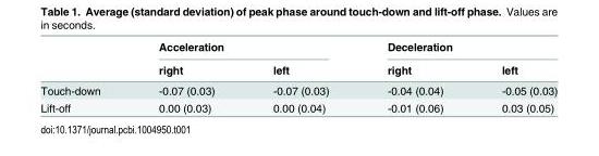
<table><thead><tr><td rowspan="2"></td><td colspan="2">Acceleration</td><td colspan="2">Deceleration</td></tr><tr><td>right</td><td>left</td><td>right</td><td>left</td></tr></thead><tbody><tr><td>Touch-down</td><td>-0.07 (0.03)</td><td>-0.07 (0.03)</td><td>-0.04 (0.04)</td><td>-0.05 (0.03)</td></tr><tr><td>Lift-off</td><td>0.00 (0.03)</td><td>0.00 (0.04)</td><td>-0.01 (0.06)</td><td>0.03 (0.05)</td></tr></tbody></table>